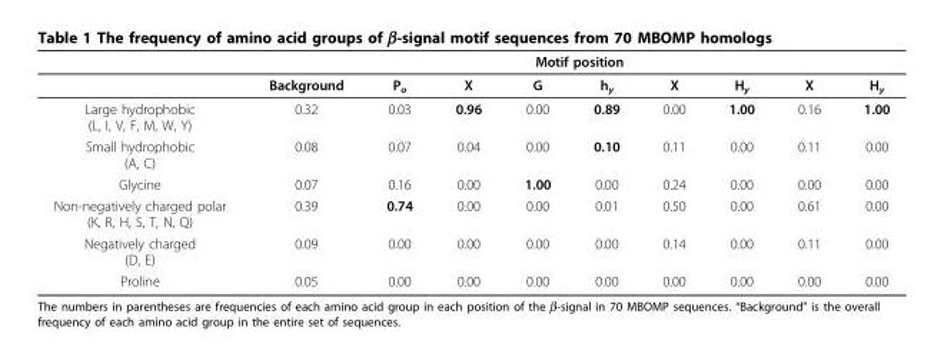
<table><thead><tr><td rowspan="2"></td><td colspan="9">Motif position</td></tr><tr><td>Background</td><td>P<sub>o</sub></td><td>X</td><td>G</td><td>h<sub>y</sub></td><td>X</td><td>H<sub>y</sub></td><td>X</td><td>H<sub>y</sub></td></tr></thead><tbody><tr><td>Large hydrophobic (L, I, V, F, M, W, Y)</td><td>0.32</td><td>0.03</td><td>0.96</td><td>0.00</td><td>0.89</td><td>0.00</td><td>1.00</td><td>0.16</td><td>1.00</td></tr><tr><td>Small hydrophobic (A, C)</td><td>0.08</td><td>0.07</td><td>0.04</td><td>0.00</td><td>0.10</td><td>0.11</td><td>0.00</td><td>0.11</td><td>0.00</td></tr><tr><td>Glycine</td><td>0.07</td><td>0.16</td><td>0.00</td><td>1.00</td><td>0.00</td><td>0.24</td><td>0.00</td><td>0.00</td><td>0.00</td></tr><tr><td>Non-negatively charged polar (K, R, H, S, T, N, Q)</td><td>0.39</td><td>0.74</td><td>0.00</td><td>0.00</td><td>0.01</td><td>0.50</td><td>0.00</td><td>0.61</td><td>0.00</td></tr><tr><td>Negatively charged (D, E)</td><td>0.09</td><td>0.00</td><td>0.00</td><td>0.00</td><td>0.00</td><td>0.14</td><td>0.00</td><td>0.11</td><td>0.00</td></tr><tr><td>Proline</td><td>0.05</td><td>0.00</td><td>0.00</td><td>0.00</td><td>0.00</td><td>0.00</td><td>0.00</td><td>0.00</td><td>0.00</td></tr></tbody></table>